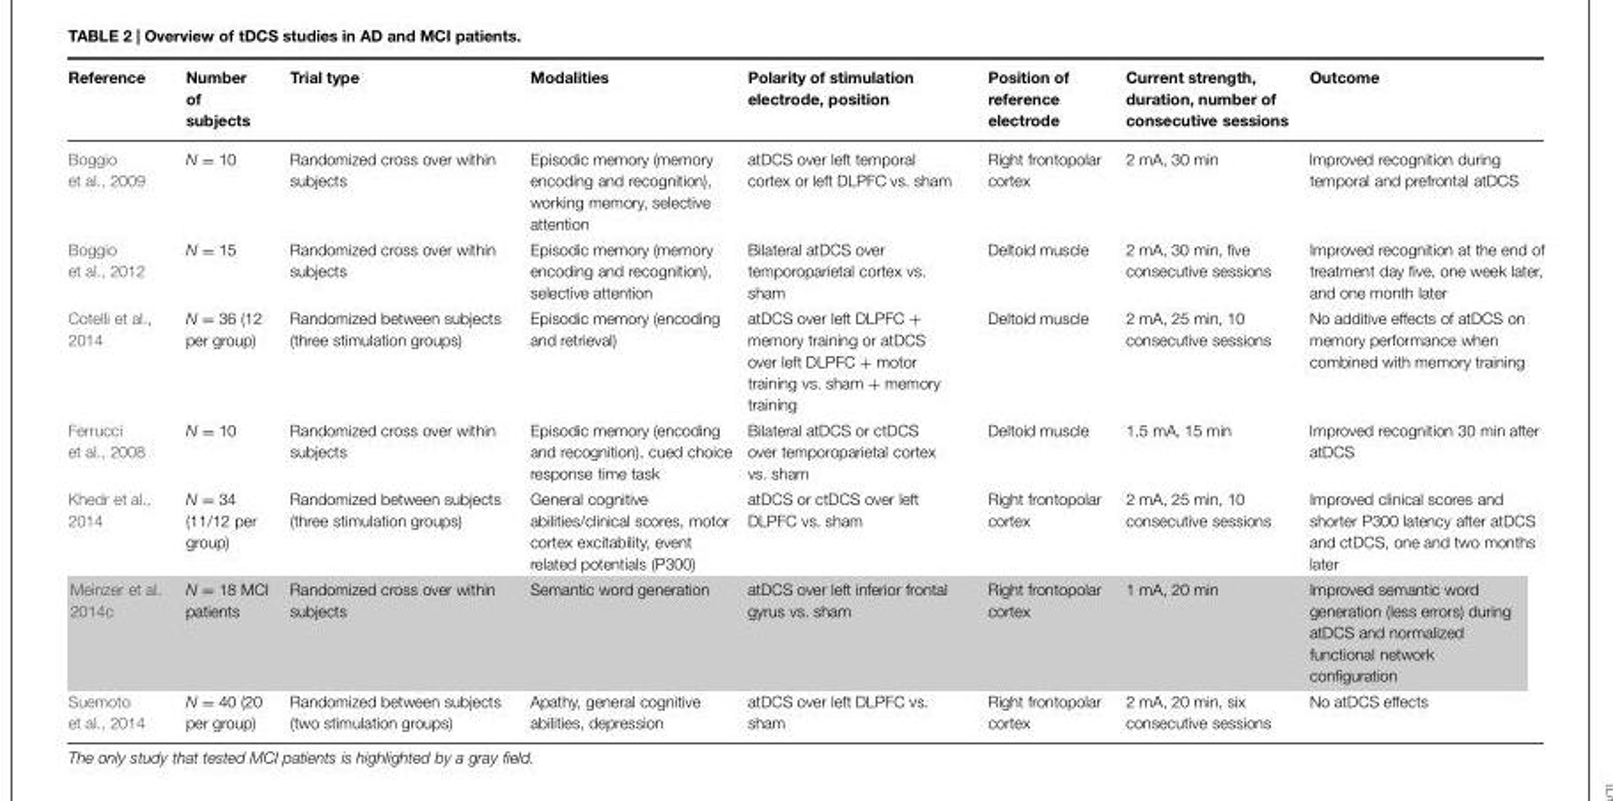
<table><thead><tr><td>Reference</td><td>Number of subjects</td><td>Trial type</td><td>Modalities</td><td>Polarity of stimulation electrode, position</td><td>Position of reference electrode</td><td>Current strength, duration, number of consecutive sessions</td><td>Outcome</td></tr></thead><tbody><tr><td>Boggio et al., 2009</td><td>N = 10</td><td>Randomized cross over within subjects</td><td>Episodic memory (memory encoding and recognition), working memory, selective attention</td><td>atDCS over left temporal cortex or left DLPFC vs. sham</td><td>Right frontopolar cortex</td><td>2 mA, 30 min</td><td>Improved recognition during temporal and prefrontal atDCS</td></tr><tr><td>Boggio et al., 2012</td><td>N = 15</td><td>Randomized cross over within subjects</td><td>Episodic memory (memory encoding and recognition), selective attention</td><td>Bilateral atDCS over temporoparietal cortex vs. sham</td><td>Deltoid muscle</td><td>2 mA, 30 min, five consecutive sessions</td><td>Improved recognition at the end of treatment day five, one week later, and one month later</td></tr><tr><td>Cotelli et al., 2014</td><td>N = 36 (12 per group)</td><td>Randomized between subjects (three stimulation groups)</td><td>Episodic memory (encoding and retrieval)</td><td>atDCS over left DLPFC + memory training or atDCS over left DLPFC + motor training vs. sham + memory training</td><td>Deltoid muscle</td><td>2 mA, 25 min, 10 consecutive sessions</td><td>No additive effects of atDCS on memory performance when combined with memory training</td></tr><tr><td>Ferrucci et al., 2008</td><td>N = 10</td><td>Randomized cross over within subjects</td><td>Episodic memory (encoding and recognition), cued choice response time task</td><td>Bilateral atDCS or ctDCS over temporoparietal cortex vs. sham</td><td>Deltoid muscle</td><td>1.5 mA, 15 min</td><td>Improved recognition 30 min after atDCS</td></tr><tr><td>Khedr et al., 2014</td><td>N = 34 (11/12 per group)</td><td>Randomized between subjects (three stimulation groups)</td><td>General cognitive abilities/clinical scores, motor cortex excitability, event related potentials (P300)</td><td>atDCS or ctDCS over left DLPFC vs. sham</td><td>Right frontopolar cortex</td><td>2 mA, 25 min, 10 consecutive sessions</td><td>Improved clinical scores and shorter P300 latency after atDCS and ctDCS, one and two months later</td></tr><tr><td>Meinzer et al. 2014c</td><td>N = 18 MCI patients</td><td>Randomized cross over within subjects</td><td>Semantic word generation</td><td>atDCS over left inferior frontal gyrus vs. sham</td><td>Right frontopolar cortex</td><td>1 mA, 20 min</td><td>Improved semantic word generation (less errors) during atDCS and normalized functional network configuration</td></tr><tr><td>Suemoto et al., 2014</td><td>N = 40 (20 per group)</td><td>Randomized between subjects (two stimulation groups)</td><td>Apathy, general cognitive abilities, depression</td><td>atDCS over left DLPFC vs. sham</td><td>Right frontopolar cortex</td><td>2 mA, 20 min, six consecutive sessions</td><td>No atDCS effects</td></tr></tbody></table>